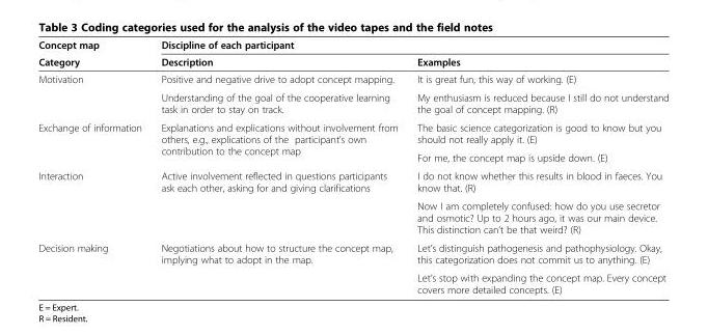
<table><thead><tr><td rowspan="2">Concept map Category</td><td colspan="2">Discipline of each participant</td></tr><tr><td>Description</td><td>Examples</td></tr></thead><tbody><tr><td rowspan="2">Motivation</td><td>Positive and negative drive to adopt concept mapping.</td><td>It is great fun, this way of working. (E)</td></tr><tr><td>Understanding of the goal of the cooperative learning task in order to stay on track.</td><td>My enthusiasm is reduced because I still do not understand the goal of concept mapping. (R)</td></tr><tr><td rowspan="2">Exchange of information</td><td rowspan="2">Explanations and explications without involvement from others, e.g., explications of the participant’s own contribution to the concept map</td><td>The basic science categorization is good to know but you should not really apply it. (E)</td></tr><tr><td>For me, the concept map is upside down. (E)</td></tr><tr><td rowspan="2">Interaction</td><td rowspan="2">Active involvement reflected in questions participants ask each other, asking for and giving clarifications</td><td>I do not know whether this results in blood in faeces. You know that. (R)</td></tr><tr><td>Now I am completely confused: how do you use secretor and osmotic? Up to 2 hours ago, it was our main device. This distinction can’t be that weird? (R)</td></tr><tr><td rowspan="2">Decision making</td><td rowspan="2">Negotiations about how to structure the concept map, implying what to adopt in the map.</td><td>Let’s distinguish pathogenesis and pathophysiology. Okay, this categorization does not commit us to anything. (E)</td></tr><tr><td>Let’s stop with expanding the concept map. Every concept covers more detailed concepts. (E)</td></tr></tbody></table>